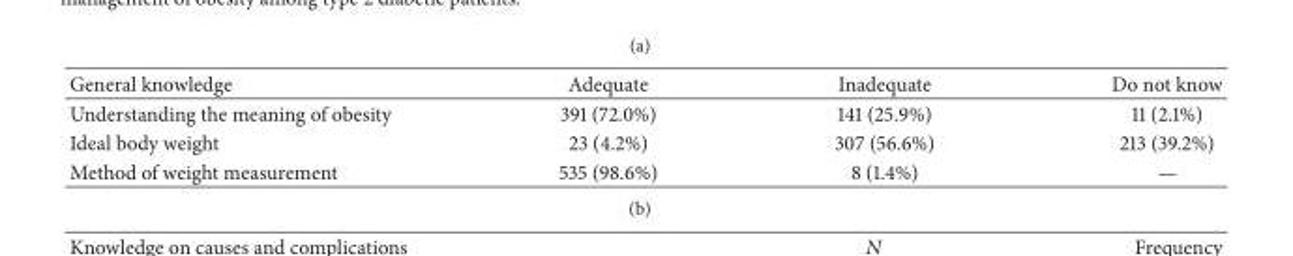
<table><thead><tr><td>General knowledge</td><td>Adequate</td><td>Inadequate</td><td>Do not know</td></tr></thead><tbody><tr><td>Understanding the meaning of obesity</td><td>391 (72.0%)</td><td>141 (25.9%)</td><td>11 (2.1%)</td></tr><tr><td>Ideal body weight</td><td>23 (4.2%)</td><td>307 (56.6%)</td><td>213 (39.2%)</td></tr><tr><td>Method of weight measurement</td><td>535 (98.6%)</td><td>8 (1.4%)</td><td>—</td></tr></tbody></table>